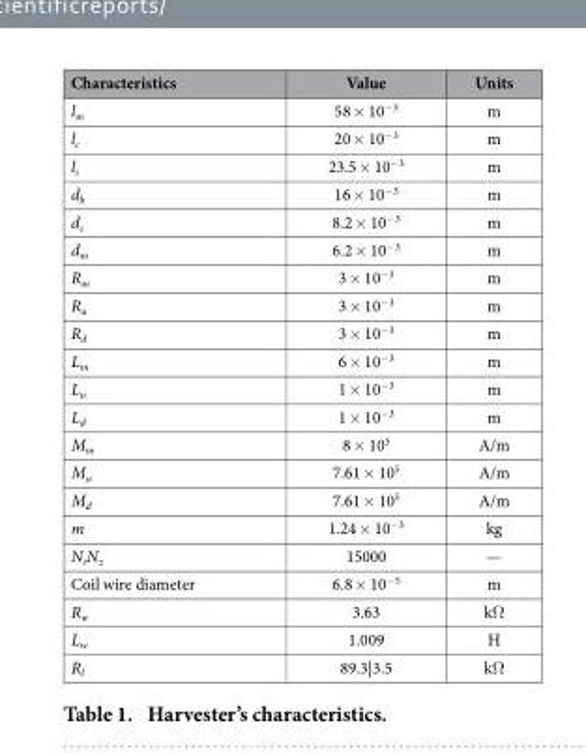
<table><thead><tr><td>Characteristics</td><td>Value</td><td>Units</td></tr></thead><tbody><tr><td>l<sub>m</sub></td><td>58 × 10<sup>−3</sup></td><td>m</td></tr><tr><td>l<sub>c</sub></td><td>20 × 10<sup>−3</sup></td><td>m</td></tr><tr><td>l<sub>i</sub></td><td>23.5 × 10<sup>−3</sup></td><td>m</td></tr><tr><td>d<sub>h</sub></td><td>16 × 10<sup>−3</sup></td><td>m</td></tr><tr><td>d<sub>c</sub></td><td>8.2 × 10<sup>−3</sup></td><td>m</td></tr><tr><td>d<sub>m</sub></td><td>6.2 × 10<sup>−3</sup></td><td>m</td></tr><tr><td>R<sub>m</sub></td><td>3 × 10<sup>−3</sup></td><td>m</td></tr><tr><td>R<sub>u</sub></td><td>3 × 10<sup>−3</sup></td><td>m</td></tr><tr><td>R<sub>d</sub></td><td>3 × 10<sup>−3</sup></td><td>m</td></tr><tr><td>L<sub>m</sub></td><td>6 × 10<sup>−3</sup></td><td>m</td></tr><tr><td>L<sub>u</sub></td><td>1 × 10<sup>−3</sup></td><td>m</td></tr><tr><td>L<sub>d</sub></td><td>1 × 10<sup>−3</sup></td><td>m</td></tr><tr><td>M<sub>m</sub></td><td>8 × 10<sup>5</sup></td><td>A/m</td></tr><tr><td>M<sub>u</sub></td><td>7.61 × 10<sup>5</sup></td><td>A/m</td></tr><tr><td>M<sub>d</sub></td><td>7.61 × 10<sup>5</sup></td><td>A/m</td></tr><tr><td>m</td><td>1.24 × 10<sup>−3</sup></td><td>kg</td></tr><tr><td>N<sub>r</sub>N<sub>z</sub></td><td>15000</td><td>—</td></tr><tr><td>Coil wire diameter</td><td>6.8 × 10<sup>−5</sup></td><td>m</td></tr><tr><td>R<sub>w</sub></td><td>3.63</td><td>kΩ</td></tr><tr><td>L<sub>w</sub></td><td>1.009</td><td>H</td></tr><tr><td>R<sub>l</sub></td><td>89.3|3.5</td><td>kΩ</td></tr></tbody></table>